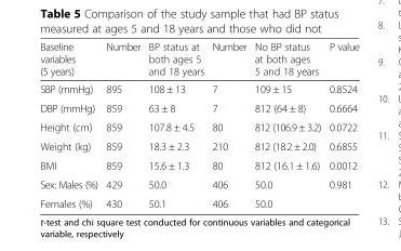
<table><thead><tr><td>Baseline variables (5 years)</td><td>Number</td><td>BP status at both ages 5 and 18 years</td><td>Number</td><td>No BP status at both ages 5 and 18 years</td><td>P value</td></tr></thead><tbody><tr><td>SBP (mmHg)</td><td>895</td><td>108 ± 13</td><td>7</td><td>109 ± 15</td><td>0.8524</td></tr><tr><td>DBP (mmHg)</td><td>859</td><td>63 ± 8</td><td>7</td><td>812 (64 ± 8)</td><td>0.6664</td></tr><tr><td>Height (cm)</td><td>859</td><td>107.8 ± 4.5</td><td>80</td><td>812 (106.9 ± 3.2)</td><td>0.0722</td></tr><tr><td>Weight (kg)</td><td>859</td><td>18.3 ± 2.3</td><td>210</td><td>812 (18.2 ± 2.0)</td><td>0.6855</td></tr><tr><td>BMI</td><td>859</td><td>15.6 ± 1.3</td><td>80</td><td>812 (16.1 ± 1.6)</td><td>0.0012</td></tr><tr><td>Sex: Males (%)</td><td>429</td><td>50.0</td><td>406</td><td>50.0</td><td rowspan="2">0.981</td></tr><tr><td>Females (%)</td><td>430</td><td>50.1</td><td>406</td><td>50.0</td></tr></tbody></table>